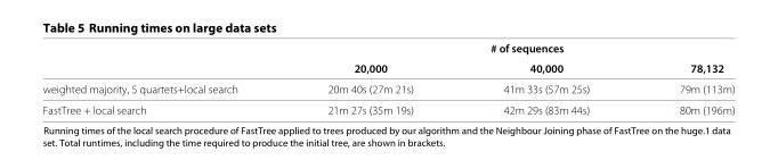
<table><thead><tr><td rowspan="2"></td><td rowspan="2">20,000</td><td rowspan="2"># of sequences 40,000</td><td rowspan="2">78,132</td></tr><tr></tr></thead><tbody><tr><td>weighted majority, 5 quartets+local search</td><td>20m 40s (27m 21s)</td><td>41m 33s (57m 25s)</td><td>79m (113m)</td></tr><tr><td>FastTree + local search</td><td>21m 27s (35m 19s)</td><td>42m 29s (83m 44s)</td><td>80m (196m)</td></tr></tbody></table>